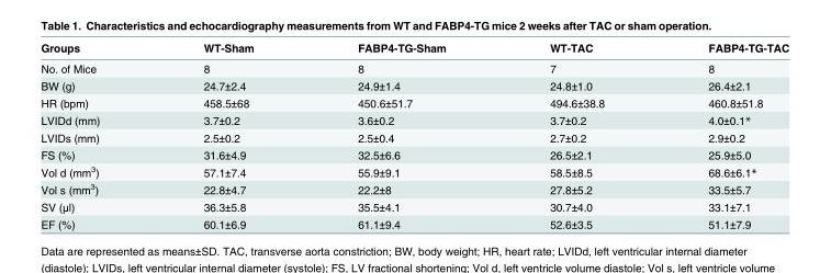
<table><thead><tr><td>Groups</td><td>WT-Sham</td><td>FABP4-TG-Sham</td><td>WT-TAC</td><td>FABP4-TG-TAC</td></tr></thead><tbody><tr><td>No. of Mice</td><td>8</td><td>8</td><td>7</td><td>8</td></tr><tr><td>BW (g)</td><td>24.7±2.4</td><td>24.9±1.4</td><td>24.8±1.0</td><td>26.4±2.1</td></tr><tr><td>HR (bpm)</td><td>458.5±68</td><td>450.6±51.7</td><td>494.6±38.8</td><td>460.8±51.8</td></tr><tr><td>LVIDd (mm)</td><td>3.7±0.2</td><td>3.6±0.2</td><td>3.7±0.2</td><td>4.0±0.1*</td></tr><tr><td>LVIDs (mm)</td><td>2.5±0.2</td><td>2.5±0.4</td><td>2.7±0.2</td><td>2.9±0.2</td></tr><tr><td>FS (%)</td><td>31.6±4.9</td><td>32.5±6.6</td><td>26.5±2.1</td><td>25.9±5.0</td></tr><tr><td>Vol d (mm<sup>3</sup>)</td><td>57.1±7.4</td><td>55.9±9.1</td><td>58.5±8.5</td><td>68.6±6.1*</td></tr><tr><td>Vol s (mm<sup>3</sup>)</td><td>22.8±4.7</td><td>22.2±8</td><td>27.8±5.2</td><td>33.5±5.7</td></tr><tr><td>SV (μl)</td><td>36.3±5.8</td><td>35.5±4.1</td><td>30.7±4.0</td><td>33.1±7.1</td></tr><tr><td>EF (%)</td><td>60.1±6.9</td><td>61.1±9.4</td><td>52.6±3.5</td><td>51.1±7.9</td></tr></tbody></table>